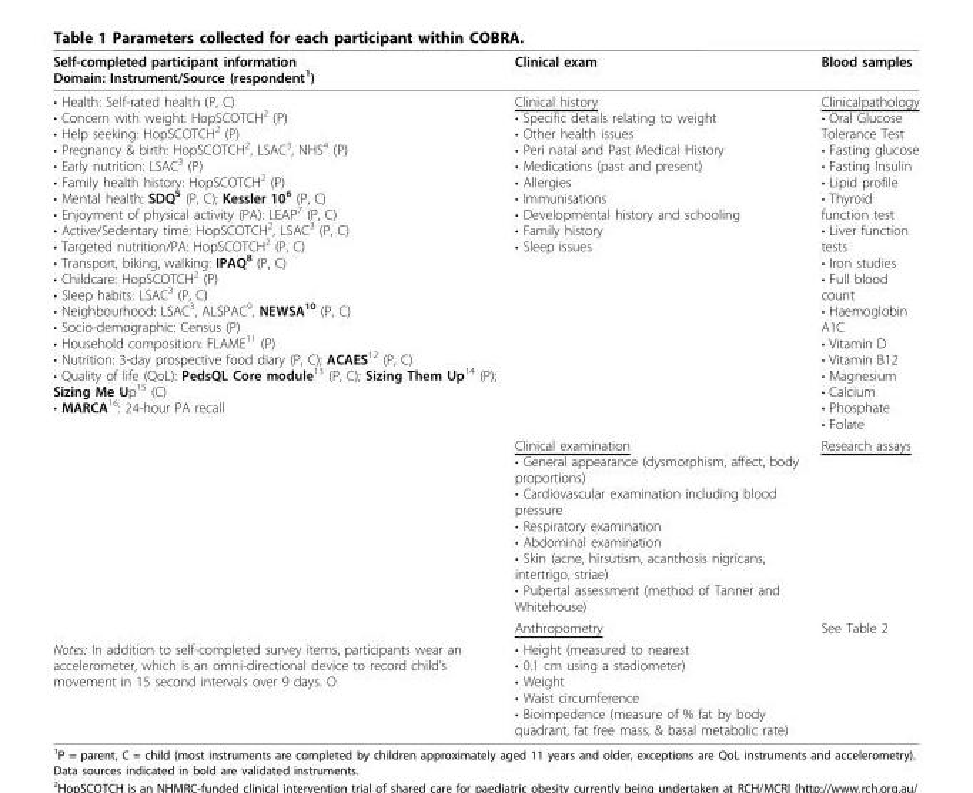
<table><thead><tr><td>Self-completed participant information Domain: Instrument/Source (respondent<sup>1</sup>)</td><td>Clinical exam</td><td>Blood samples</td></tr></thead><tbody><tr><td rowspan="3">• Health: Self-rated health (P, C) • Concern with weight: HopSCOTCH2 (P) • Help seeking: HopSCOTCH2 (P) • Pregnancy &amp; birth: HopSCOTCH2, LSAC3, NHS4 (P) • Early nutrition: LSAC3 (P) • Family health history: HopSCOTCH2 (P) • Mental health: SDQ5 (P, C); Kessler 106 (P, C) • Enjoyment of physical activity (PA): LEAP7 (P, C) • Active/Sedentary time: HopSCOTCH2, LSAC3 (P, C) • Targeted nutrition/PA: HopSCOTCH2 (P, C) • Transport, biking, walking: IPAQ8 (P, C) • Childcare: HopSCOTCH2 (P) • Sleep habits: LSAC3 (P, C) • Neighbourhood: LSAC3, ALSPAC9, NEWSA10 (P, C) • Socio-demographic: Census (P) • Household composition: FLAME11 (P) • Nutrition: 3-day prospective food diary (P, C); ACAES12 (P, C) • Quality of life (QoL): PedsQL Core module13 (P, C); Sizing Them Up14 (P); Sizing Me Up15 (C) • MARCA16: 24-hour PA recall</td><td>Clinical history • Specific details relating to weight • Other health issues • Peri natal and Past Medical History • Medications (past and present) • Allergies • Immunisations • Developmental history and schooling • Family history • Sleep issues</td><td>Clinicalpathology • Oral Glucose Tolerance Test • Fasting glucose • Fasting Insulin • Lipid profile • Thyroid function test • Liver function tests • Iron studies • Full blood count • Haemoglobin A1C • Vitamin D • Vitamin B12 • Magnesium • Calcium • Phosphate • Folate</td></tr><tr><td>Clinical examination • General appearance (dysmorphism, affect, body proportions) • Cardiovascular examination including blood pressure • Respiratory examination • Abdominal examination • Skin (acne, hirsutism, acanthosis nigricans, intertrigo, striae) • Pubertal assessment (method of Tanner and Whitehouse)</td><td>Research assays</td></tr><tr><td>Anthropometry</td><td>See Table 2</td></tr><tr><td>Notes: In addition to self-completed survey items, participants wear an accelerometer, which is an omni-directional device to record child’s movement in 15 second intervals over 9 days. О</td><td>• Height (measured to nearest • 0.1 cm using a stadiometer) • Weight • Waist circumference • Bioimpedence (measure of % fat by body quadrant, fat free mass, &amp; basal metabolic rate)</td><td></td></tr></tbody></table>